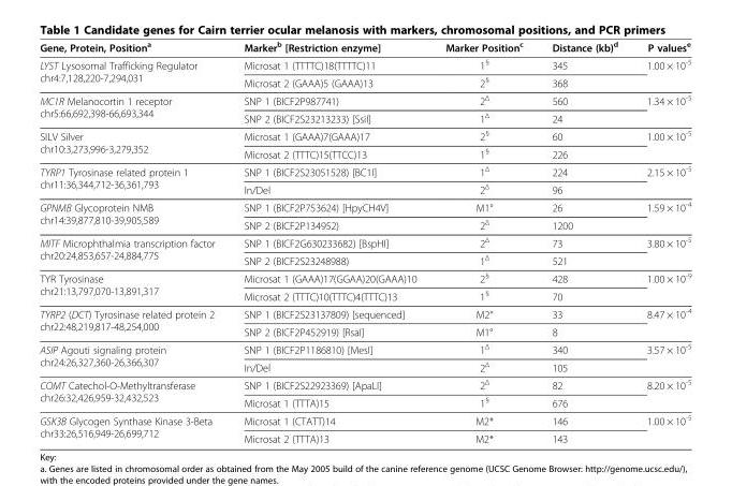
<table><thead><tr><td>Gene, Protein, Position<sup>a</sup></td><td>Marker<sup>b</sup> [Restriction enzyme]</td><td>Marker Position<sup>c</sup></td><td>Distance (kb)<sup>d</sup></td><td>P values<sup>e</sup></td></tr></thead><tbody><tr><td rowspan="2">LYST Lysosomal Trafficking Regulator chr4:7,128,220-7,294,031</td><td>Microsat 1 (TTTTC)18(TTTTC)11</td><td>1<sup>§</sup></td><td>345</td><td rowspan="2">1.00 × 10<sup>-5</sup></td></tr><tr><td>Microsat 2 (GAAA)5 (GAAA)13</td><td>2<sup>§</sup></td><td>368</td></tr><tr><td rowspan="2">MC1R Melanocortin 1 receptor chr5:66,692,398-66,693,344</td><td>SNP 1 (BICF2P987741)</td><td>2Δ</td><td>560</td><td rowspan="2">1.34 × 10<sup>-5</sup></td></tr><tr><td>SNP 2 (BICF2S23213233) [SsiI]</td><td>1Δ</td><td>24</td></tr><tr><td rowspan="2">SILV Silver chr10:3,273,996-3,279,352</td><td>Microsat 1 (GAAA)7(GAAA)17</td><td>2<sup>§</sup></td><td>60</td><td rowspan="2">1.00 × 10<sup>-5</sup></td></tr><tr><td>Microsat 2 (TTTC)15(TTCC)13</td><td>1<sup>§</sup></td><td>226</td></tr><tr><td rowspan="2">TYRP1 Tyrosinase related protein 1 chr11:36,344,712-36,361,793</td><td>SNP 1 (BICF2S23051528) [BC1I]</td><td>1Δ</td><td>224</td><td rowspan="2">2.15 × 10<sup>-5</sup></td></tr><tr><td>In/Del</td><td>2Δ</td><td>96</td></tr><tr><td rowspan="2">GPNMB Glycoprotein NMB chr14:39,877,810-39,905,589</td><td>SNP 1 (BICF2P753624) [HpyCH4V]</td><td>M1°</td><td>26</td><td rowspan="2">1.59 × 10<sup>-4</sup></td></tr><tr><td>SNP 2 (BICF2P134952)</td><td>2Δ</td><td>1200</td></tr><tr><td rowspan="2">MITF Microphthalmia transcription factor chr20:24,853,657-24,884,775</td><td>SNP 1 (BICF2G630233682) [BspHI]</td><td>2Δ</td><td>73</td><td rowspan="2">3.80 × 10<sup>-5</sup></td></tr><tr><td>SNP 2 (BICF2S23248988)</td><td>1Δ</td><td>521</td></tr><tr><td rowspan="2">TYR Tyrosinase chr21:13,797,070-13,891,317</td><td>Microsat 1 (GAAA)17(GGAA)20(GAAA)10</td><td>2<sup>§</sup></td><td>428</td><td rowspan="2">1.00 × 10<sup>-9</sup></td></tr><tr><td>Microsat 2 (TTTC)10(TTTC)4(TTTC)13</td><td>1<sup>§</sup></td><td>70</td></tr><tr><td rowspan="2">TYRP2 (DCT) Tyrosinase related protein 2 chr22:48,219,817-48,254,000</td><td>SNP 1 (BICF2S23137809) [sequenced]</td><td>M2°</td><td>33</td><td rowspan="2">8.47 × 10<sup>-4</sup></td></tr><tr><td>SNP 2 (BICF2P452919) [RsaI]</td><td>M1°</td><td>8</td></tr><tr><td rowspan="2">ASIP Agouti signaling protein chr24:26,327,360-26,366,307</td><td>SNP 1 (BICF2P1186810) [MesI]</td><td>1Δ</td><td>340</td><td rowspan="2">3.57 × 10<sup>-5</sup></td></tr><tr><td>In/Del</td><td>2Δ</td><td>105</td></tr><tr><td rowspan="2">COMT Catechol-O-Methyltransferase chr26:32,426,959-32,432,523</td><td>SNP 1 (BICF2S22923369) [ApaLI]</td><td>2Δ</td><td>82</td><td rowspan="2">8.20 × 10<sup>-5</sup></td></tr><tr><td>Microsat 1 (TTTA)15</td><td>1<sup>§</sup></td><td>676</td></tr><tr><td rowspan="2">GSK3B Glycogen Synthase Kinase 3-Beta chr33:26,516,949-26,699,712</td><td>Microsat 1 (CTATT)14</td><td>M2*</td><td>146</td><td rowspan="2">1.00 × 10<sup>-5</sup></td></tr><tr><td>Microsat 2 (TTTA)13</td><td>M2*</td><td>143</td></tr></tbody></table>